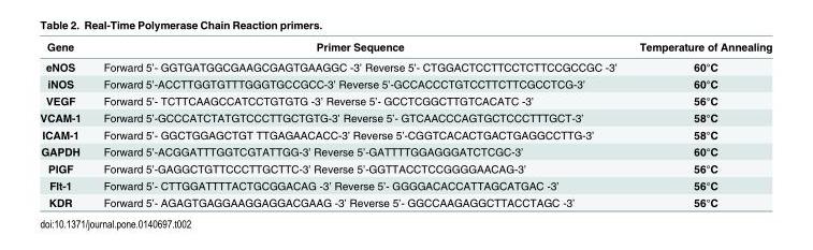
<table><thead><tr><td>Gene</td><td>Primer Sequence</td><td>Temperature of Annealing</td></tr></thead><tbody><tr><td>eNOS</td><td>Forward 5’- GGTGATGGCGAAGCGAGTGAAGGC -3’ Reverse 5’- CTGGACTCCTTCCTCTTCCGCCGC -3’</td><td>60°C</td></tr><tr><td>iNOS</td><td>Forward 5’-ACCTTGGTGTTTGGGTGCCGCC-3’ Reverse 5’-GCCACCCTGTCCTTCTTCGCCTCG-3’</td><td>60°C</td></tr><tr><td>VEGF</td><td>Forward 5’- TCTTCAAGCCATCCTGTGTG -3’ Reverse 5’- GCCTCGGCTTGTCACATC -3’</td><td>56°C</td></tr><tr><td>VCAM-1</td><td>Forward 5’-GCCCATCTATGTCCCTTGCTGTG-3’ Reverse 5’- GTCAACCCAGTGCTCCCTTTGCT-3’</td><td>58°C</td></tr><tr><td>ICAM-1</td><td>Forward 5’- GGCTGGAGCTGT TTGAGAACACC-3’ Reverse 5’-CGGTCACACTGACTGAGGCCTTG-3’</td><td>58°C</td></tr><tr><td>GAPDH</td><td>Forward 5’-ACGGATTTGGTCGTATTGG-3’ Reverse 5’-GATTTTGGAGGGATCTCGC-3’</td><td>60°C</td></tr><tr><td>PlGF</td><td>Forward 5’-GAGGCTGTTCCCTTGCTTC-3’ Reverse 5’-GGTTACCTCCGGGGAACAG-3’</td><td>56°C</td></tr><tr><td>Flt-1</td><td>Forward 5’- CTTGGATTTTACTGCGGACAG -3’ Reverse 5’- GGGGACACCATTAGCATGAC -3’</td><td>56°C</td></tr><tr><td>KDR</td><td>Forward 5’- AGAGTGAGGAAGGAGGACGAAG -3’ Reverse 5’- GGCCAAGAGGCTTACCTAGC -3’</td><td>56°C</td></tr></tbody></table>